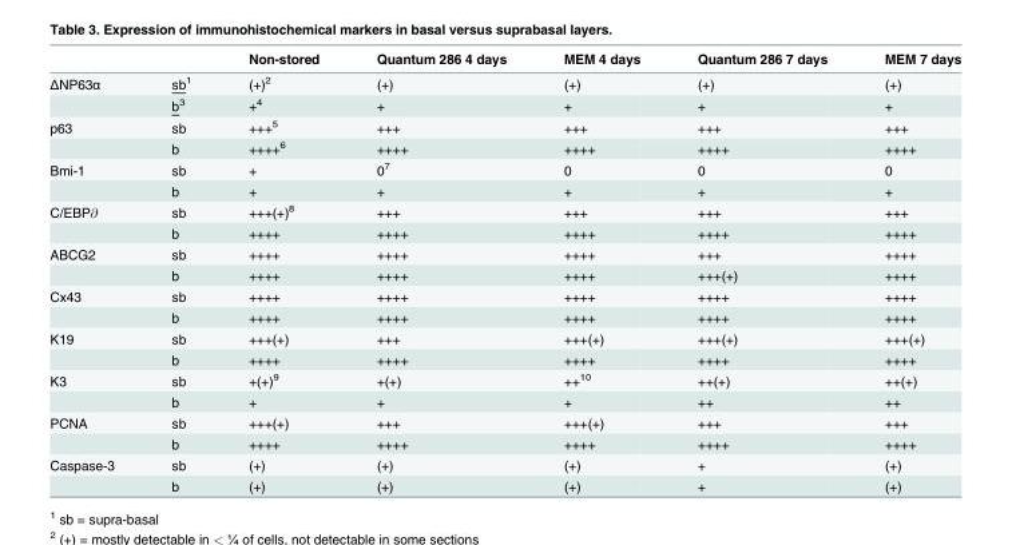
<table><thead><tr><td></td><td></td><td>Non-stored</td><td>Quantum 286 4 days</td><td>MEM 4 days</td><td>Quantum 286 7 days</td><td>MEM 7 days</td></tr></thead><tbody><tr><td rowspan="2">ΔNP63α</td><td>sb<sup>1</sup></td><td>(+)<sup>2</sup></td><td>(+)</td><td>(+)</td><td>(+)</td><td>(+)</td></tr><tr><td>b<sup>3</sup></td><td>+<sup>4</sup></td><td>+</td><td>+</td><td>+</td><td>+</td></tr><tr><td rowspan="2">p63</td><td>sb</td><td>+++<sup>5</sup></td><td>+++</td><td>+++</td><td>+++</td><td>+++</td></tr><tr><td>b</td><td>++++<sup>6</sup></td><td>++++</td><td>++++</td><td>++++</td><td>++++</td></tr><tr><td rowspan="2">Bmi-1</td><td>sb</td><td>+</td><td>0<sup>7</sup></td><td>0</td><td>0</td><td>0</td></tr><tr><td>b</td><td>+</td><td>+</td><td>+</td><td>+</td><td>+</td></tr><tr><td rowspan="2">C/EBP∂</td><td>sb</td><td>+++(+)<sup>8</sup></td><td>+++</td><td>+++</td><td>+++</td><td>+++</td></tr><tr><td>b</td><td>++++</td><td>++++</td><td>++++</td><td>++++</td><td>++++</td></tr><tr><td rowspan="2">ABCG2</td><td>sb</td><td>++++</td><td>++++</td><td>++++</td><td>+++</td><td>++++</td></tr><tr><td>b</td><td>++++</td><td>++++</td><td>++++</td><td>+++(+)</td><td>++++</td></tr><tr><td rowspan="2">Cx43</td><td>sb</td><td>++++</td><td>++++</td><td>++++</td><td>++++</td><td>++++</td></tr><tr><td>b</td><td>++++</td><td>++++</td><td>++++</td><td>++++</td><td>++++</td></tr><tr><td rowspan="2">K19</td><td>sb</td><td>+++(+)</td><td>+++</td><td>+++(+)</td><td>+++(+)</td><td>+++(+)</td></tr><tr><td>b</td><td>++++</td><td>++++</td><td>++++</td><td>++++</td><td>++++</td></tr><tr><td rowspan="2">K3</td><td>sb</td><td>+(+)<sup>9</sup></td><td>+(+)</td><td>++<sup>10</sup></td><td>++(+)</td><td>++(+)</td></tr><tr><td>b</td><td>+</td><td>+</td><td>+</td><td>++</td><td>++</td></tr><tr><td rowspan="2">PCNA</td><td>sb</td><td>+++(+)</td><td>+++</td><td>+++(+)</td><td>+++</td><td>+++</td></tr><tr><td>b</td><td>++++</td><td>++++</td><td>++++</td><td>++++</td><td>++++</td></tr><tr><td rowspan="2">Caspase-3</td><td>sb</td><td>(+)</td><td>(+)</td><td>(+)</td><td>+</td><td>(+)</td></tr><tr><td>b</td><td>(+)</td><td>(+)</td><td>(+)</td><td>+</td><td>(+)</td></tr></tbody></table>